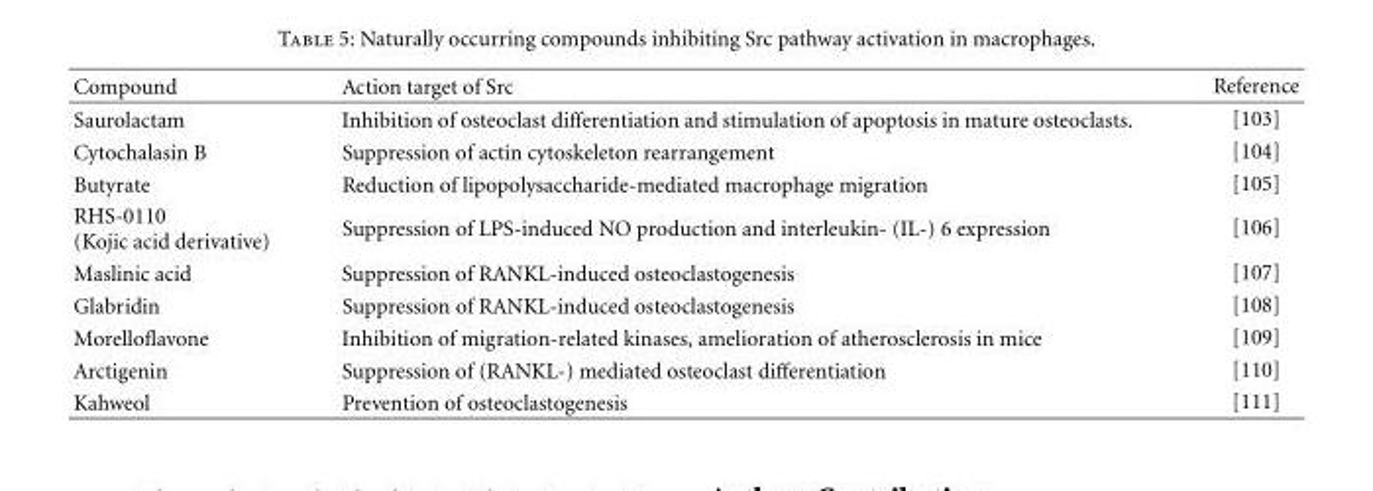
<table><thead><tr><td>Compound</td><td>Action target of Src</td><td>Reference</td></tr></thead><tbody><tr><td>Saurolactam</td><td>Inhibition of osteoclast differentiation and stimulation of apoptosis in mature osteoclasts.</td><td>[103]</td></tr><tr><td>Cytochalasin B</td><td>Suppression of actin cytoskeleton rearrangement</td><td>[104]</td></tr><tr><td>Butyrate</td><td>Reduction of lipopolysaccharide-mediated macrophage migration</td><td>[105]</td></tr><tr><td>RHS-0110 (Kojic acid derivative)</td><td>Suppression of LPS-induced NO production and interleukin- (IL-) 6 expression</td><td>[106]</td></tr><tr><td>Maslinic acid</td><td>Suppression of RANKL-induced osteoclastogenesis</td><td>[107]</td></tr><tr><td>Glabridin</td><td>Suppression of RANKL-induced osteoclastogenesis</td><td>[108]</td></tr><tr><td>Morelloflavone</td><td>Inhibition of migration-related kinases, amelioration of atherosclerosis in mice</td><td>[109]</td></tr><tr><td>Arctigenin</td><td>Suppression of (RANKL-) mediated osteoclast differentiation</td><td>[110]</td></tr><tr><td>Kahweol</td><td>Prevention of osteoclastogenesis</td><td>[111]</td></tr></tbody></table>